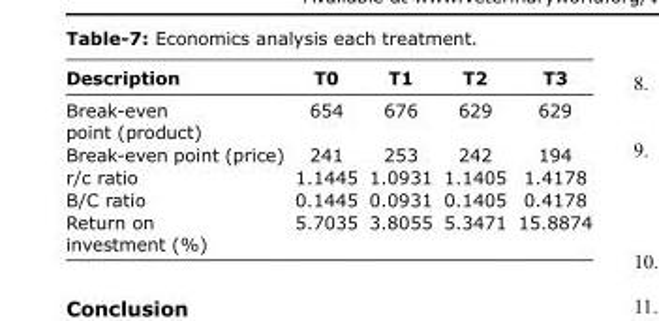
<table><thead><tr><td>Description</td><td>T0</td><td>T1</td><td>T2</td><td>T3</td></tr></thead><tbody><tr><td>Break-even point (product)</td><td>654</td><td>676</td><td>629</td><td>629</td></tr><tr><td>Break-even point (price)</td><td>241</td><td>253</td><td>242</td><td>194</td></tr><tr><td>r/c ratio</td><td>1.1445</td><td>1.0931</td><td>1.1405</td><td>1.4178</td></tr><tr><td>B/C ratio</td><td>0.1445</td><td>0.0931</td><td>0.1405</td><td>0.4178</td></tr><tr><td>Return on investment (%)</td><td>5.7035</td><td>3.8055</td><td>5.3471</td><td>15.8874</td></tr></tbody></table>